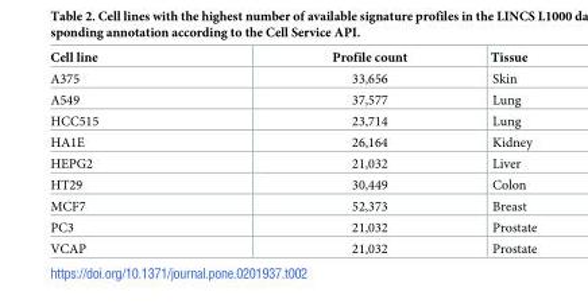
<table><thead><tr><td>Cell line</td><td>Profile count</td><td>Tissue</td></tr></thead><tbody><tr><td>A375</td><td>33,656</td><td>Skin</td></tr><tr><td>A549</td><td>37,577</td><td>Lung</td></tr><tr><td>HCC515</td><td>23,714</td><td>Lung</td></tr><tr><td>HA1E</td><td>26,164</td><td>Kidney</td></tr><tr><td>HEPG2</td><td>21,032</td><td>Liver</td></tr><tr><td>HT29</td><td>30,449</td><td>Colon</td></tr><tr><td>MCF7</td><td>52,373</td><td>Breast</td></tr><tr><td>PC3</td><td>21,032</td><td>Prostate</td></tr><tr><td>VCAP</td><td>21,032</td><td>Prostate</td></tr></tbody></table>